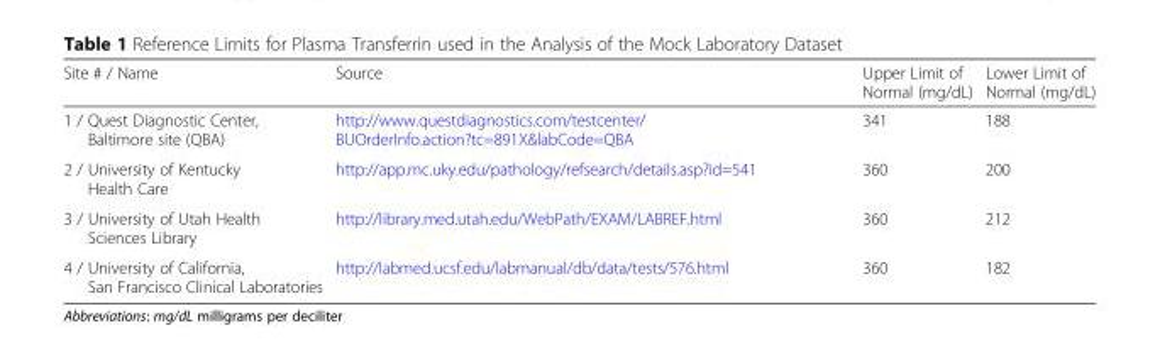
<table><thead><tr><td>Site # / Name</td><td>Source</td><td>Upper Limit of Normal (mg/dL)</td><td>Lower Limit of Normal (mg/dL)</td></tr></thead><tbody><tr><td>1 / Quest Diagnostic Center, Baltimore site (QBA)</td><td>http://www.questdiagnostics.com/testcenter/ BUOrderInfo.action?tc=891X&amp;labCode=QBA</td><td>341</td><td>188</td></tr><tr><td>2 / University of Kentucky Health Care</td><td>http://app.mc.uky.edu/pathology/refsearch/details.asp?id=541</td><td>360</td><td>200</td></tr><tr><td>3 / University of Utah Health Sciences Library</td><td>http://library.med.utah.edu/WebPath/EXAM/LABREF.html</td><td>360</td><td>212</td></tr><tr><td>4 / University of California, San Francisco Clinical Laboratories</td><td>http://labmed.ucsf.edu/labmanual/db/data/tests/576.html</td><td>360</td><td>182</td></tr></tbody></table>